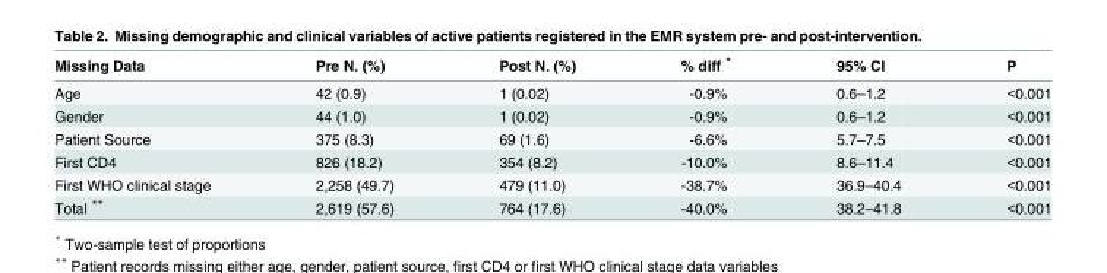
<table><thead><tr><td>Missing Data</td><td>Pre N. (%)</td><td>Post N. (%)</td><td>% diff *</td><td>95% CI</td><td>P</td></tr></thead><tbody><tr><td>Age</td><td>42 (0.9)</td><td>1 (0.02)</td><td>-0.9%</td><td>0.6–1.2</td><td>&lt;0.001</td></tr><tr><td>Gender</td><td>44 (1.0)</td><td>1 (0.02)</td><td>-0.9%</td><td>0.6–1.2</td><td>&lt;0.001</td></tr><tr><td>Patient Source</td><td>375 (8.3)</td><td>69 (1.6)</td><td>-6.6%</td><td>5.7–7.5</td><td>&lt;0.001</td></tr><tr><td>First CD4</td><td>826 (18.2)</td><td>354 (8.2)</td><td>-10.0%</td><td>8.6–11.4</td><td>&lt;0.001</td></tr><tr><td>First WHO clinical stage</td><td>2,258 (49.7)</td><td>479 (11.0)</td><td>-38.7%</td><td>36.9–40.4</td><td>&lt;0.001</td></tr><tr><td>Total **</td><td>2,619 (57.6)</td><td>764 (17.6)</td><td>-40.0%</td><td>38.2–41.8</td><td>&lt;0.001</td></tr></tbody></table>